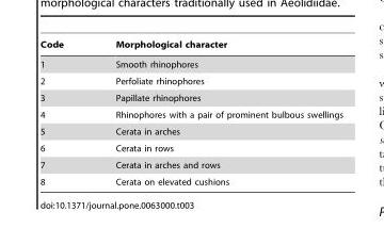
<table><thead><tr><td>Code</td><td>Morphological character</td></tr></thead><tbody><tr><td>1</td><td>Smooth rhinophores</td></tr><tr><td>2</td><td>Perfoliate rhinophores</td></tr><tr><td>3</td><td>Papillate rhinophores</td></tr><tr><td>4</td><td>Rhinophores with a pair of prominent bulbous swellings</td></tr><tr><td>5</td><td>Cerata in arches</td></tr><tr><td>6</td><td>Cerata in rows</td></tr><tr><td>7</td><td>Cerata in arches and rows</td></tr><tr><td>8</td><td>Cerata on elevated cushions</td></tr></tbody></table>